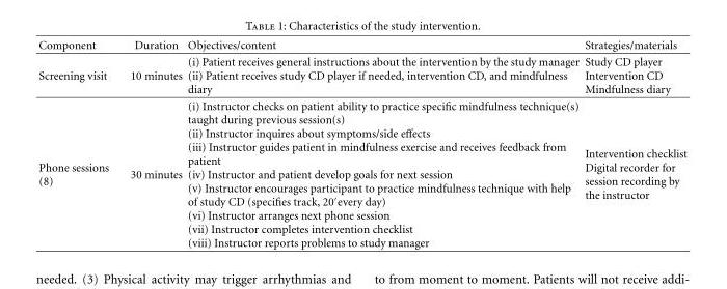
<table><thead><tr><td>Component</td><td>Duration</td><td>Objectives/content</td><td>Strategies/materials</td></tr></thead><tbody><tr><td>Screening visit</td><td>10 minutes</td><td>(i) Patient receives general instructions about the intervention by the study manager (ii) Patient receives study CD player if needed, intervention CD, and mindfulness diary</td><td>Study CD player Intervention CD Mindfulness diary</td></tr><tr><td>Phone sessions (8)</td><td>30 minutes</td><td>(i) Instructor checks on patient ability to practice specific mindfulness technique(s) taught during previous session(s) (ii) Instructor inquires about symptoms/side effects (iii) Instructor guides patient in mindfulness exercise and receives feedback from patient (iv) Instructor and patient develop goals for next session (v) Instructor encourages participant to practice mindfulness technique with help of study CD (specifies track, 20′every day) (vi) Instructor arranges next phone session (vii) Instructor completes intervention checklist (viii) Instructor reports problems to study manager</td><td>Intervention checklist Digital recorder for session recording by the instructor</td></tr></tbody></table>